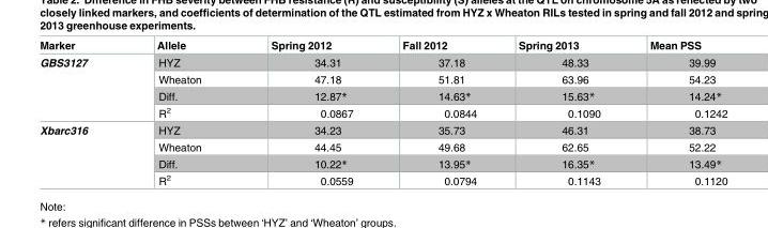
<table><thead><tr><td>Marker</td><td>Allele</td><td>Spring 2012</td><td>Fall 2012</td><td>Spring 2013</td><td>Mean PSS</td></tr></thead><tbody><tr><td rowspan="4">GBS3127</td><td>HYZ</td><td>34.31</td><td>37.18</td><td>48.33</td><td>39.99</td></tr><tr><td>Wheaton</td><td>47.18</td><td>51.81</td><td>63.96</td><td>54.23</td></tr><tr><td>Diff.</td><td>12.87*</td><td>14.63*</td><td>15.63*</td><td>14.24*</td></tr><tr><td>R<sup>2</sup></td><td>0.0867</td><td>0.0844</td><td>0.1090</td><td>0.1242</td></tr><tr><td rowspan="4">Xbarc316</td><td>HYZ</td><td>34.23</td><td>35.73</td><td>46.31</td><td>38.73</td></tr><tr><td>Wheaton</td><td>44.45</td><td>49.68</td><td>62.65</td><td>52.22</td></tr><tr><td>Diff.</td><td>10.22*</td><td>13.95*</td><td>16.35*</td><td>13.49*</td></tr><tr><td>R<sup>2</sup></td><td>0.0559</td><td>0.0794</td><td>0.1143</td><td>0.1120</td></tr></tbody></table>